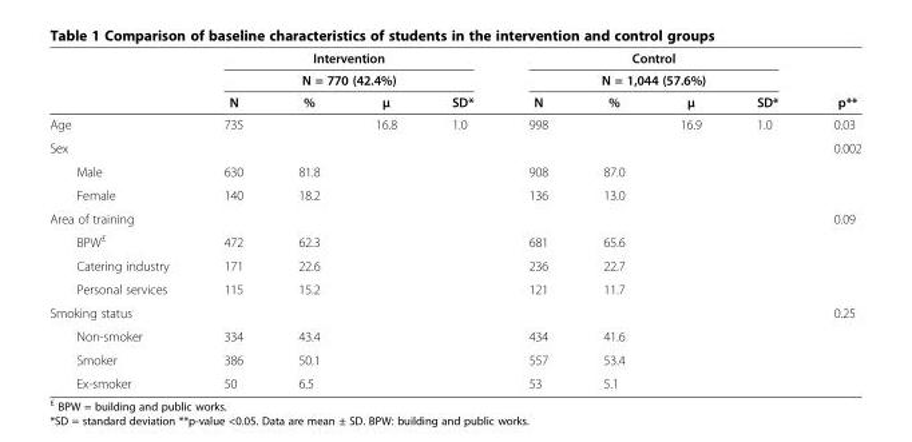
<table><thead><tr><td rowspan="3"></td><td rowspan="2" colspan="4">Intervention N = 770 (42.4%)</td><td rowspan="2" colspan="4">Control N = 1,044 (57.6%)</td><td rowspan="3">p**</td></tr><tr></tr><tr><td>N</td><td>%</td><td>μ</td><td>SD*</td><td>N</td><td>%</td><td>μ</td><td>SD*</td></tr></thead><tbody><tr><td>Age</td><td>735</td><td></td><td>16.8</td><td>1.0</td><td>998</td><td></td><td>16.9</td><td>1.0</td><td>0.03</td></tr><tr><td colspan="9">Sex</td><td>0.002</td></tr><tr><td>Male</td><td>630</td><td>81.8</td><td></td><td></td><td>908</td><td>87.0</td><td></td><td></td><td></td></tr><tr><td>Female</td><td>140</td><td>18.2</td><td></td><td></td><td>136</td><td>13.0</td><td></td><td></td><td></td></tr><tr><td colspan="9">Area of training</td><td>0.09</td></tr><tr><td>BPW<sup>£</sup></td><td>472</td><td>62.3</td><td></td><td></td><td>681</td><td>65.6</td><td></td><td></td><td></td></tr><tr><td>Catering industry</td><td>171</td><td>22.6</td><td></td><td></td><td>236</td><td>22.7</td><td></td><td></td><td></td></tr><tr><td>Personal services</td><td>115</td><td>15.2</td><td></td><td></td><td>121</td><td>11.7</td><td></td><td></td><td></td></tr><tr><td colspan="9">Smoking status</td><td>0.25</td></tr><tr><td>Non-smoker</td><td>334</td><td>43.4</td><td></td><td></td><td>434</td><td>41.6</td><td></td><td></td><td></td></tr><tr><td>Smoker</td><td>386</td><td>50.1</td><td></td><td></td><td>557</td><td>53.4</td><td></td><td></td><td></td></tr><tr><td>Ex-smoker</td><td>50</td><td>6.5</td><td></td><td></td><td>53</td><td>5.1</td><td></td><td></td><td></td></tr></tbody></table>